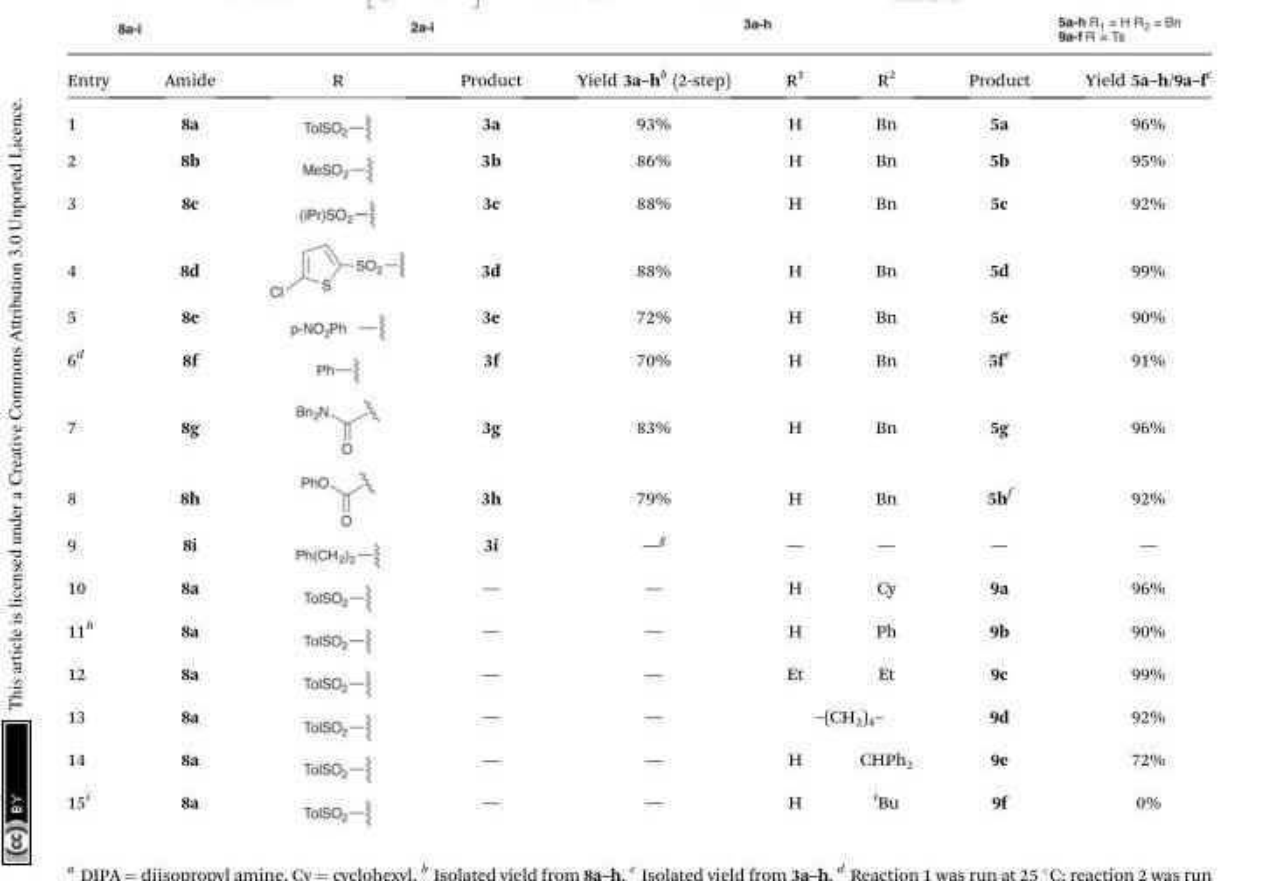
<table><thead><tr><td>Entry</td><td>Amide</td><td>R</td><td>Product</td><td>Yield 3a–h<sup>b</sup> (2-step)</td><td>R<sup>1</sup></td><td>R<sup>2</sup></td><td>Product</td><td>Yield 5a–h/9a–f<sup>c</sup></td></tr></thead><tbody><tr><td>1</td><td>8a</td><td></td><td>3a</td><td>93%</td><td>H</td><td>Bn</td><td>5a</td><td>96%</td></tr><tr><td>2</td><td>8b</td><td></td><td>3b</td><td>86%</td><td>H</td><td>Bn</td><td>5b</td><td>95%</td></tr><tr><td>3</td><td>8c</td><td></td><td>3c</td><td>88%</td><td>H</td><td>Bn</td><td>5c</td><td>92%</td></tr><tr><td>4</td><td>8d</td><td></td><td>3d</td><td>88%</td><td>H</td><td>Bn</td><td>5d</td><td>99%</td></tr><tr><td>5</td><td>8e</td><td></td><td>3e</td><td>72%</td><td>H</td><td>Bn</td><td>5e</td><td>90%</td></tr><tr><td>6<sup>d</sup></td><td>8f</td><td></td><td>3f</td><td>70%</td><td>H</td><td>Bn</td><td>5f<sup>e</sup></td><td>91%</td></tr><tr><td>7</td><td>8g</td><td></td><td>3g</td><td>83%</td><td>H</td><td>Bn</td><td>5g</td><td>96%</td></tr><tr><td>8</td><td>8h</td><td></td><td>3h</td><td>79%</td><td>H</td><td>Bn</td><td>5h<sup>f</sup></td><td>92%</td></tr><tr><td>9</td><td>8i</td><td></td><td>3i</td><td>—<sup>g</sup></td><td>—</td><td>—</td><td>—</td><td>—</td></tr><tr><td>10</td><td>8a</td><td></td><td>—</td><td>—</td><td>H</td><td>Cy</td><td>9a</td><td>96%</td></tr><tr><td>11<sup>h</sup></td><td>8a</td><td></td><td>—</td><td>—</td><td>H</td><td>Ph</td><td>9b</td><td>90%</td></tr><tr><td>12</td><td>8a</td><td></td><td>—</td><td>—</td><td>Et</td><td>Et</td><td>9c</td><td>99%</td></tr><tr><td>13</td><td>8a</td><td></td><td>—</td><td>—</td><td colspan="2">–(CH<sub>2</sub>)<sub>4</sub>–</td><td>9d</td><td>92%</td></tr><tr><td>14</td><td>8a</td><td></td><td>—</td><td>—</td><td>H</td><td>CHPh<sub>2</sub></td><td>9e</td><td>72%</td></tr><tr><td>15<sup>i</sup></td><td>8a</td><td></td><td>—</td><td>—</td><td>H</td><td><sup>t</sup>Bu</td><td>9f</td><td>0%</td></tr></tbody></table>